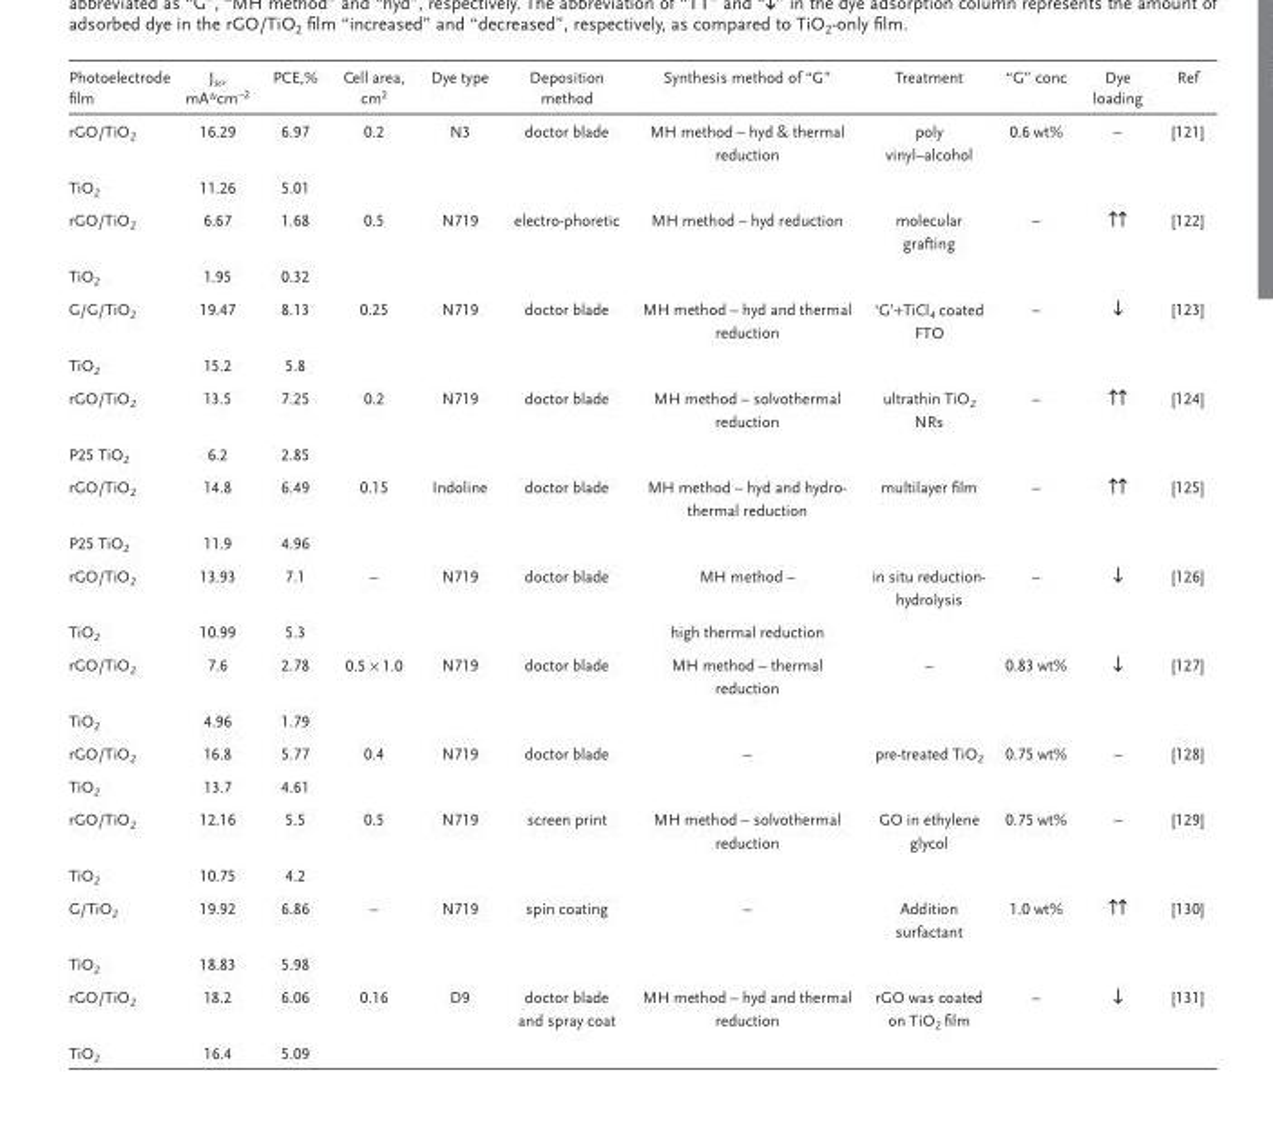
<table><thead><tr><td>Photoelectrode fi lm</td><td>J <sub>sc</sub> , mA*cm <sup>−2</sup></td><td>PCE,%</td><td>Cell area, cm <sup>2</sup></td><td>Dye type</td><td>Deposition method</td><td>Synthesis method of “G”</td><td>Treatment</td><td>“G” conc</td><td>Dye loading</td><td>Ref</td></tr></thead><tbody><tr><td>rGO/TiO <sub>2</sub></td><td>16.29</td><td>6.97</td><td>0.2</td><td>N3</td><td>doctor blade</td><td>MH method – hyd &amp; thermal reduction</td><td>poly vinyl–alcohol</td><td>0.6 wt%</td><td>–</td><td>[121]</td></tr><tr><td>TiO <sub>2</sub></td><td>11.26</td><td>5.01</td><td></td><td></td><td></td><td></td><td></td><td></td><td></td><td></td></tr><tr><td>rGO/TiO <sub>2</sub></td><td>6.67</td><td>1.68</td><td>0.5</td><td>N719</td><td>electro-phoretic</td><td>MH method – hyd reduction</td><td>molecular grafting</td><td>–</td><td>↑↑</td><td>[122]</td></tr><tr><td>TiO <sub>2</sub></td><td>1.95</td><td>0.32</td><td></td><td></td><td></td><td></td><td></td><td></td><td></td><td></td></tr><tr><td>G/G/TiO <sub>2</sub></td><td>19.47</td><td>8.13</td><td>0.25</td><td>N719</td><td>doctor blade</td><td>MH method – hyd and thermal reduction</td><td>‘G’+TiCl <sub>4</sub> coated FTO</td><td>–</td><td>↓</td><td>[123]</td></tr><tr><td>TiO <sub>2</sub></td><td>15.2</td><td>5.8</td><td></td><td></td><td></td><td></td><td></td><td></td><td></td><td></td></tr><tr><td>rGO/TiO <sub>2</sub></td><td>13.5</td><td>7.25</td><td>0.2</td><td>N719</td><td>doctor blade</td><td>MH method – solvothermal reduction</td><td>ultrathin TiO <sub>2</sub> NRs</td><td>–</td><td>↑↑</td><td>[124]</td></tr><tr><td>P25 TiO <sub>2</sub></td><td>6.2</td><td>2.85</td><td></td><td></td><td></td><td></td><td></td><td></td><td></td><td></td></tr><tr><td>rGO/TiO <sub>2</sub></td><td>14.8</td><td>6.49</td><td>0.15</td><td>Indoline</td><td>doctor blade</td><td>MH method – hyd and hydro- thermal reduction</td><td>multilayer fi lm</td><td>–</td><td>↑↑</td><td>[125]</td></tr><tr><td>P25 TiO <sub>2</sub></td><td>11.9</td><td>4.96</td><td></td><td></td><td></td><td></td><td></td><td></td><td></td><td></td></tr><tr><td>rGO/TiO <sub>2</sub></td><td>13.93</td><td>7.1</td><td>–</td><td>N719</td><td>doctor blade</td><td>MH method –</td><td>in situ reduction- hydrolysis</td><td>–</td><td>↓</td><td>[126]</td></tr><tr><td>TiO <sub>2</sub></td><td>10.99</td><td>5.3</td><td></td><td></td><td></td><td>high thermal reduction</td><td></td><td></td><td></td><td></td></tr><tr><td>rGO/TiO <sub>2</sub></td><td>7.6</td><td>2.78</td><td>0.5 × 1.0</td><td>N719</td><td>doctor blade</td><td>MH method – thermal reduction</td><td>–</td><td>0.83 wt%</td><td>↓</td><td>[127]</td></tr><tr><td>TiO <sub>2</sub></td><td>4.96</td><td>1.79</td><td></td><td></td><td></td><td></td><td></td><td></td><td></td><td></td></tr><tr><td>rGO/TiO <sub>2</sub></td><td>16.8</td><td>5.77</td><td>0.4</td><td>N719</td><td>doctor blade</td><td>–</td><td>pre-treated TiO <sub>2</sub></td><td>0.75 wt%</td><td>–</td><td>[128]</td></tr><tr><td>TiO <sub>2</sub></td><td>13.7</td><td>4.61</td><td></td><td></td><td></td><td></td><td></td><td></td><td></td><td></td></tr><tr><td>rGO/TiO <sub>2</sub></td><td>12.16</td><td>5.5</td><td>0.5</td><td>N719</td><td>screen print</td><td>MH method – solvothermal reduction</td><td>GO in ethylene glycol</td><td>0.75 wt%</td><td>–</td><td>[129]</td></tr><tr><td>TiO <sub>2</sub></td><td>10.75</td><td>4.2</td><td></td><td></td><td></td><td></td><td></td><td></td><td></td><td></td></tr><tr><td>G/TiO <sub>2</sub></td><td>19.92</td><td>6.86</td><td>–</td><td>N719</td><td>spin coating</td><td>–</td><td>Addition surfactant</td><td>1.0 wt%</td><td>↑↑</td><td>[130]</td></tr><tr><td>TiO <sub>2</sub></td><td>18.83</td><td>5.98</td><td></td><td></td><td></td><td></td><td></td><td></td><td></td><td></td></tr><tr><td>rGO/TiO <sub>2</sub></td><td>18.2</td><td>6.06</td><td>0.16</td><td>D9</td><td>doctor blade and spray coat</td><td>MH method – hyd and thermal reduction</td><td>rGO was coated on TiO <sub>2</sub> fi lm</td><td>–</td><td>↓</td><td>[131]</td></tr><tr><td>TiO <sub>2</sub></td><td>16.4</td><td>5.09</td><td></td><td></td><td></td><td></td><td></td><td></td><td></td><td></td></tr></tbody></table>